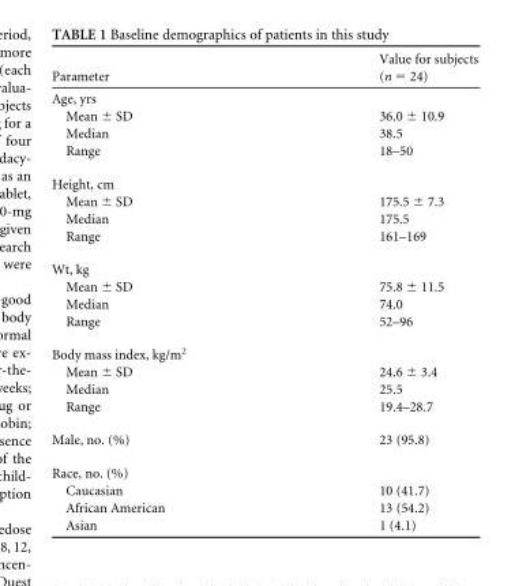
<table><thead><tr><td>Parameter</td><td>Value for subjects (n = 24)</td></tr></thead><tbody><tr><td colspan="2">Age, yrs</td></tr><tr><td>Mean ± SD</td><td>36.0 ± 10.9</td></tr><tr><td>Median</td><td>38.5</td></tr><tr><td>Range</td><td>18–50</td></tr><tr><td colspan="2">Height, cm</td></tr><tr><td>Mean ± SD</td><td>175.5 ± 7.3</td></tr><tr><td>Median</td><td>175.5</td></tr><tr><td>Range</td><td>161–169</td></tr><tr><td colspan="2">Wt, kg</td></tr><tr><td>Mean ± SD</td><td>75.8 ± 11.5</td></tr><tr><td>Median</td><td>74.0</td></tr><tr><td>Range</td><td>52–96</td></tr><tr><td colspan="2">Body mass index, kg/m<sup>2</sup></td></tr><tr><td>Mean ± SD</td><td>24.6 ± 3.4</td></tr><tr><td>Median</td><td>25.5</td></tr><tr><td>Range</td><td>19.4–28.7</td></tr><tr><td>Male, no. (%)</td><td>23 (95.8)</td></tr><tr><td colspan="2">Race, no. (%)</td></tr><tr><td>Caucasian</td><td>10 (41.7)</td></tr><tr><td>African American</td><td>13 (54.2)</td></tr><tr><td>Asian</td><td>1 (4.1)</td></tr></tbody></table>